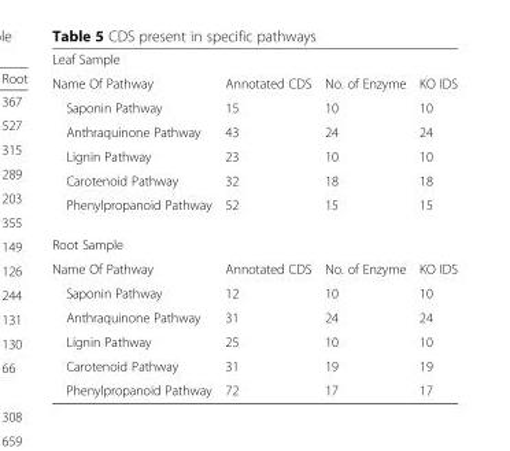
<table><tbody><tr><td colspan="4">Leaf Sample</td></tr><tr><td>Name Of Pathway</td><td>Annotated CDS</td><td>No. of Enzyme</td><td>KO IDS</td></tr><tr><td>Saponin Pathway</td><td>15</td><td>10</td><td>10</td></tr><tr><td>Anthraquinone Pathway</td><td>43</td><td>24</td><td>24</td></tr><tr><td>Lignin Pathway</td><td>23</td><td>10</td><td>10</td></tr><tr><td>Carotenoid Pathway</td><td>32</td><td>18</td><td>18</td></tr><tr><td>Phenylpropanoid Pathway</td><td>52</td><td>15</td><td>15</td></tr><tr><td colspan="4">Root Sample</td></tr><tr><td>Name Of Pathway</td><td>Annotated CDS</td><td>No. of Enzyme</td><td>KO IDS</td></tr><tr><td>Saponin Pathway</td><td>12</td><td>10</td><td>10</td></tr><tr><td>Anthraquinone Pathway</td><td>31</td><td>24</td><td>24</td></tr><tr><td>Lignin Pathway</td><td>25</td><td>10</td><td>10</td></tr><tr><td>Carotenoid Pathway</td><td>31</td><td>19</td><td>19</td></tr><tr><td>Phenylpropanoid Pathway</td><td>72</td><td>17</td><td>17</td></tr></tbody></table>